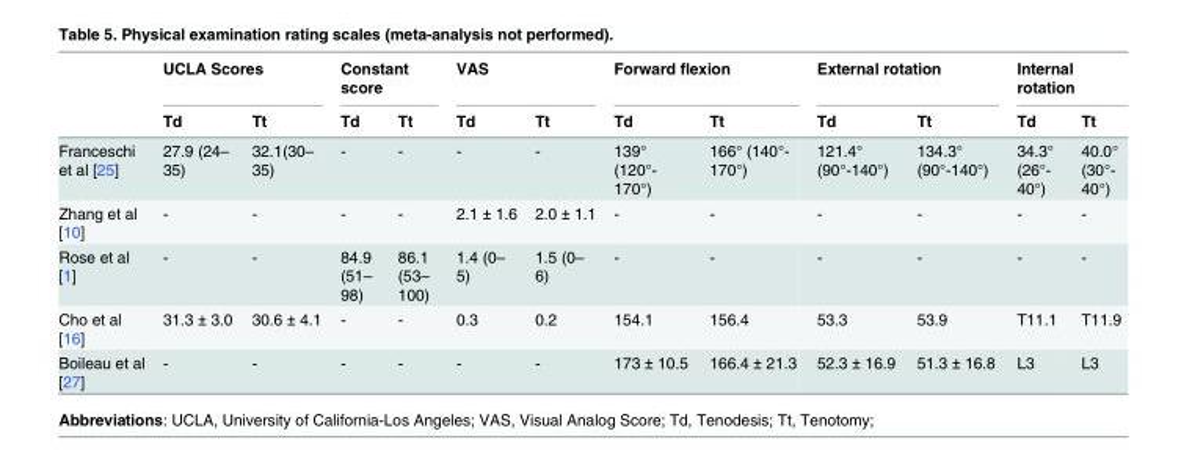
<table><thead><tr><td rowspan="2"></td><td colspan="2">UCLA Scores</td><td colspan="2">Constant score</td><td colspan="2">VAS</td><td colspan="2">Forward flexion</td><td colspan="2">External rotation</td><td colspan="2">Internal rotation</td></tr><tr><td>Td</td><td>Tt</td><td>Td</td><td>Tt</td><td>Td</td><td>Tt</td><td>Td</td><td>Tt</td><td>Td</td><td>Tt</td><td>Td</td><td>Tt</td></tr></thead><tbody><tr><td>Franceschi et al [25]</td><td>27.9 (24– 35)</td><td>32.1(30– 35)</td><td>-</td><td>-</td><td>-</td><td>-</td><td>139° (120°- 170°)</td><td>166° (140°- 170°)</td><td>121.4° (90°-140°)</td><td>134.3° (90°-140°)</td><td>34.3° (26°- 40°)</td><td>40.0° (30°- 40°)</td></tr><tr><td>Zhang et al [10]</td><td>-</td><td>-</td><td>-</td><td>-</td><td>2.1 ± 1.6</td><td>2.0 ± 1.1</td><td>-</td><td>-</td><td>-</td><td>-</td><td>-</td><td>-</td></tr><tr><td>Rose et al [1]</td><td>-</td><td>-</td><td>84.9 (51– 98)</td><td>86.1 (53– 100)</td><td>1.4 (0– 5)</td><td>1.5 (0– 6)</td><td>-</td><td>-</td><td>-</td><td>-</td><td>-</td><td>-</td></tr><tr><td>Cho et al [16]</td><td>31.3 ± 3.0</td><td>30.6 ± 4.1</td><td>-</td><td>-</td><td>0.3</td><td>0.2</td><td>154.1</td><td>156.4</td><td>53.3</td><td>53.9</td><td>T11.1</td><td>T11.9</td></tr><tr><td>Boileau et al [27]</td><td>-</td><td>-</td><td>-</td><td>-</td><td>-</td><td>-</td><td>173 ± 10.5</td><td>166.4 ± 21.3</td><td>52.3 ± 16.9</td><td>51.3 ± 16.8</td><td>L3</td><td>L3</td></tr></tbody></table>